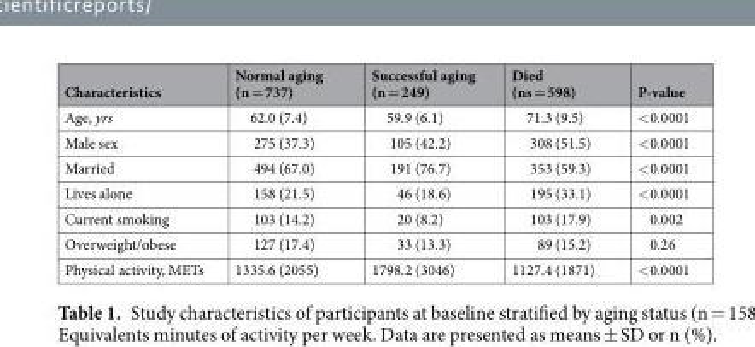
<table><thead><tr><td>Characteristics</td><td>Normal aging (n = 737)</td><td>Successful aging (n = 249)</td><td>Died (ns = 598)</td><td>P-value</td></tr></thead><tbody><tr><td>Age, yrs</td><td>62.0 (7.4)</td><td>59.9 (6.1)</td><td>71.3 (9.5)</td><td>&lt;0.0001</td></tr><tr><td>Male sex</td><td>275 (37.3)</td><td>105 (42.2)</td><td>308 (51.5)</td><td>&lt;0.0001</td></tr><tr><td>Married</td><td>494 (67.0)</td><td>191 (76.7)</td><td>353 (59.3)</td><td>&lt;0.0001</td></tr><tr><td>Lives alone</td><td>158 (21.5)</td><td>46 (18.6)</td><td>195 (33.1)</td><td>&lt;0.0001</td></tr><tr><td>Current smoking</td><td>103 (14.2)</td><td>20 (8.2)</td><td>103 (17.9)</td><td>0.002</td></tr><tr><td>Overweight/obese</td><td>127 (17.4)</td><td>33 (13.3)</td><td>89 (15.2)</td><td>0.26</td></tr><tr><td>Physical activity, METs</td><td>1335.6 (2055)</td><td>1798.2 (3046)</td><td>1127.4 (1871)</td><td>&lt;0.0001</td></tr></tbody></table>